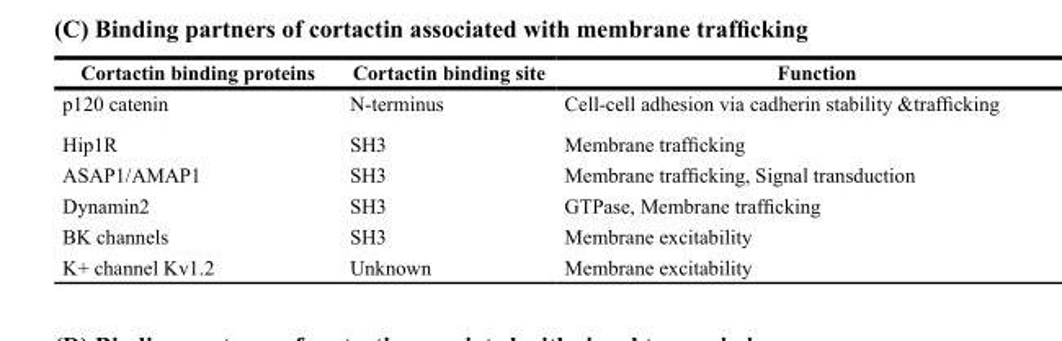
<table><thead><tr><td>Cortactin binding proteins</td><td>Cortactin binding site</td><td>Function</td></tr></thead><tbody><tr><td>p120 catenin</td><td>N-terminus</td><td>Cell-cell adhesion via cadherin stability &amp;trafficking</td></tr><tr><td>Hip1R</td><td>SH3</td><td>Membrane trafficking</td></tr><tr><td>ASAP1/AMAP1</td><td>SH3</td><td>Membrane trafficking, Signal transduction</td></tr><tr><td>Dynamin2</td><td>SH3</td><td>GTPase, Membrane trafficking</td></tr><tr><td>BK channels</td><td>SH3</td><td>Membrane excitability</td></tr><tr><td>K+ channel Kv1.2</td><td>Unknown</td><td>Membrane excitability</td></tr></tbody></table>